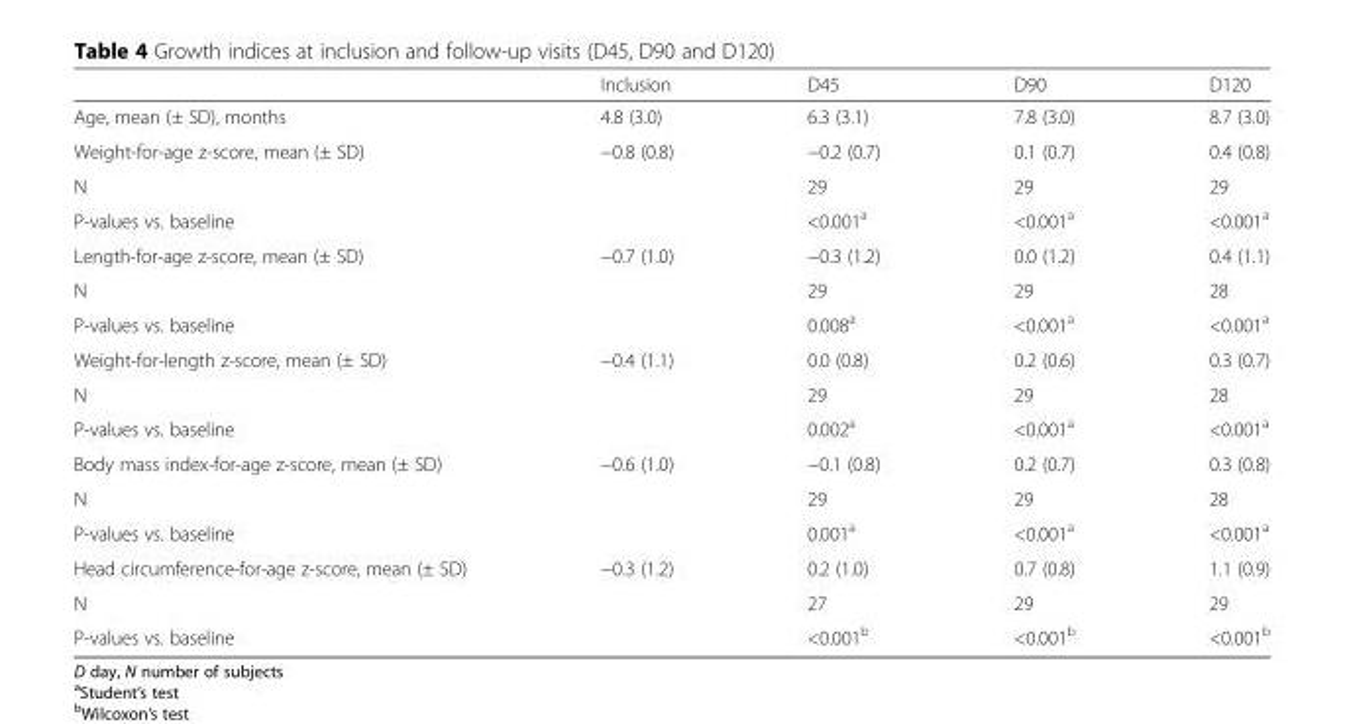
<table><thead><tr><td></td><td>Inclusion</td><td>D45</td><td>D90</td><td>D120</td></tr></thead><tbody><tr><td>Age, mean (± SD), months</td><td>4.8 (3.0)</td><td>6.3 (3.1)</td><td>7.8 (3.0)</td><td>8.7 (3.0)</td></tr><tr><td>Weight-for-age z-score, mean (± SD)</td><td>−0.8 (0.8)</td><td>−0.2 (0.7)</td><td>0.1 (0.7)</td><td>0.4 (0.8)</td></tr><tr><td>N</td><td></td><td>29</td><td>29</td><td>29</td></tr><tr><td>P-values vs. baseline</td><td></td><td>&lt;0.001<sup>a</sup></td><td>&lt;0.001<sup>a</sup></td><td>&lt;0.001<sup>a</sup></td></tr><tr><td>Length-for-age z-score, mean (± SD)</td><td>−0.7 (1.0)</td><td>−0.3 (1.2)</td><td>0.0 (1.2)</td><td>0.4 (1.1)</td></tr><tr><td>N</td><td></td><td>29</td><td>29</td><td>28</td></tr><tr><td>P-values vs. baseline</td><td></td><td>0.008<sup>a</sup></td><td>&lt;0.001<sup>a</sup></td><td>&lt;0.001<sup>a</sup></td></tr><tr><td>Weight-for-length z-score, mean (± SD)</td><td>−0.4 (1.1)</td><td>0.0 (0.8)</td><td>0.2 (0.6)</td><td>0.3 (0.7)</td></tr><tr><td>N</td><td></td><td>29</td><td>29</td><td>28</td></tr><tr><td>P-values vs. baseline</td><td></td><td>0.002<sup>a</sup></td><td>&lt;0.001<sup>a</sup></td><td>&lt;0.001<sup>a</sup></td></tr><tr><td>Body mass index-for-age z-score, mean (± SD)</td><td>−0.6 (1.0)</td><td>−0.1 (0.8)</td><td>0.2 (0.7)</td><td>0.3 (0.8)</td></tr><tr><td>N</td><td></td><td>29</td><td>29</td><td>28</td></tr><tr><td>P-values vs. baseline</td><td></td><td>0.001<sup>a</sup></td><td>&lt;0.001<sup>a</sup></td><td>&lt;0.001<sup>a</sup></td></tr><tr><td>Head circumference-for-age z-score, mean (± SD)</td><td>−0.3 (1.2)</td><td>0.2 (1.0)</td><td>0.7 (0.8)</td><td>1.1 (0.9)</td></tr><tr><td>N</td><td></td><td>27</td><td>29</td><td>29</td></tr><tr><td>P-values vs. baseline</td><td></td><td>&lt;0.001<sup>b</sup></td><td>&lt;0.001<sup>b</sup></td><td>&lt;0.001<sup>b</sup></td></tr></tbody></table>